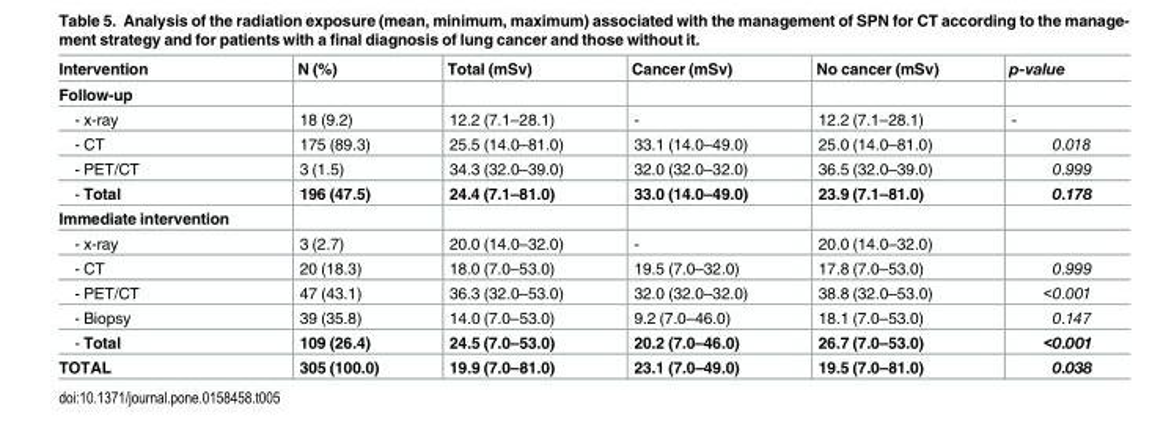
<table><thead><tr><td>Intervention</td><td>N (%)</td><td>Total (mSv)</td><td>Cancer (mSv)</td><td>No cancer (mSv)</td><td>p-value</td></tr></thead><tbody><tr><td colspan="6">Follow-up</td></tr><tr><td>- x-ray</td><td>18 (9.2)</td><td>12.2 (7.1–28.1)</td><td>-</td><td>12.2 (7.1–28.1)</td><td>-</td></tr><tr><td>- CT</td><td>175 (89.3)</td><td>25.5 (14.0–81.0)</td><td>33.1 (14.0–49.0)</td><td>25.0 (14.0–81.0)</td><td>0.018</td></tr><tr><td>- PET/CT</td><td>3 (1.5)</td><td>34.3 (32.0–39.0)</td><td>32.0 (32.0–32.0)</td><td>36.5 (32.0–39.0)</td><td>0.999</td></tr><tr><td>- Total</td><td>196 (47.5)</td><td>24.4 (7.1–81.0)</td><td>33.0 (14.0–49.0)</td><td>23.9 (7.1–81.0)</td><td>0.178</td></tr><tr><td colspan="6">Immediate intervention</td></tr><tr><td>- x-ray</td><td>3 (2.7)</td><td>20.0 (14.0–32.0)</td><td>-</td><td>20.0 (14.0–32.0)</td><td></td></tr><tr><td>- CT</td><td>20 (18.3)</td><td>18.0 (7.0–53.0)</td><td>19.5 (7.0–32.0)</td><td>17.8 (7.0–53.0)</td><td>0.999</td></tr><tr><td>- PET/CT</td><td>47 (43.1)</td><td>36.3 (32.0–53.0)</td><td>32.0 (32.0–32.0)</td><td>38.8 (32.0–53.0)</td><td>&lt;0.001</td></tr><tr><td>- Biopsy</td><td>39 (35.8)</td><td>14.0 (7.0–53.0)</td><td>9.2 (7.0–46.0)</td><td>18.1 (7.0–53.0)</td><td>0.147</td></tr><tr><td>- Total</td><td>109 (26.4)</td><td>24.5 (7.0–53.0)</td><td>20.2 (7.0–46.0)</td><td>26.7 (7.0–53.0)</td><td>&lt;0.001</td></tr><tr><td>TOTAL</td><td>305 (100.0)</td><td>19.9 (7.0–81.0)</td><td>23.1 (7.0–49.0)</td><td>19.5 (7.0–81.0)</td><td>0.038</td></tr></tbody></table>